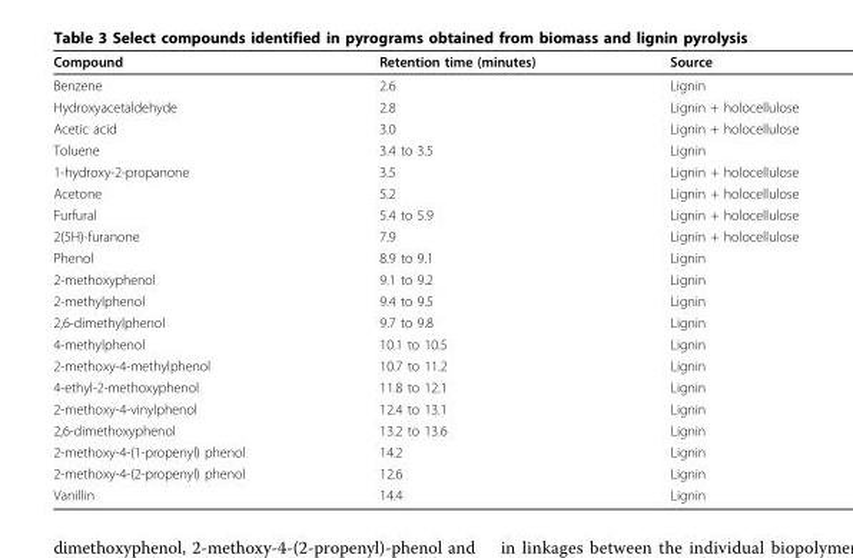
<table><thead><tr><td>Compound</td><td>Retention time (minutes)</td><td>Source</td></tr></thead><tbody><tr><td>Benzene</td><td>2.6</td><td>Lignin</td></tr><tr><td>Hydroxyacetaldehyde</td><td>2.8</td><td>Lignin + holocellulose</td></tr><tr><td>Acetic acid</td><td>3.0</td><td>Lignin + holocellulose</td></tr><tr><td>Toluene</td><td>3.4 to 3.5</td><td>Lignin</td></tr><tr><td>1-hydroxy-2-propanone</td><td>3.5</td><td>Lignin + holocellulose</td></tr><tr><td>Acetone</td><td>5.2</td><td>Lignin + holocellulose</td></tr><tr><td>Furfural</td><td>5.4 to 5.9</td><td>Lignin + holocellulose</td></tr><tr><td>2(5H)-furanone</td><td>7.9</td><td>Lignin + holocellulose</td></tr><tr><td>Phenol</td><td>8.9 to 9.1</td><td>Lignin</td></tr><tr><td>2-methoxyphenol</td><td>9.1 to 9.2</td><td>Lignin</td></tr><tr><td>2-methylphenol</td><td>9.4 to 9.5</td><td>Lignin</td></tr><tr><td>2,6-dimethylphenol</td><td>9.7 to 9.8</td><td>Lignin</td></tr><tr><td>4-methylphenol</td><td>10.1 to 10.5</td><td>Lignin</td></tr><tr><td>2-methoxy-4-methylphenol</td><td>10.7 to 11.2</td><td>Lignin</td></tr><tr><td>4-ethyl-2-methoxyphenol</td><td>11.8 to 12.1</td><td>Lignin</td></tr><tr><td>2-methoxy-4-vinylphenol</td><td>12.4 to 13.1</td><td>Lignin</td></tr><tr><td>2,6-dimethoxyphenol</td><td>13.2 to 13.6</td><td>Lignin</td></tr><tr><td>2-methoxy-4-(1-propenyl) phenol</td><td>14.2</td><td>Lignin</td></tr><tr><td>2-methoxy-4-(2-propenyl) phenol</td><td>12.6</td><td>Lignin</td></tr><tr><td>Vanillin</td><td>14.4</td><td>Lignin</td></tr></tbody></table>